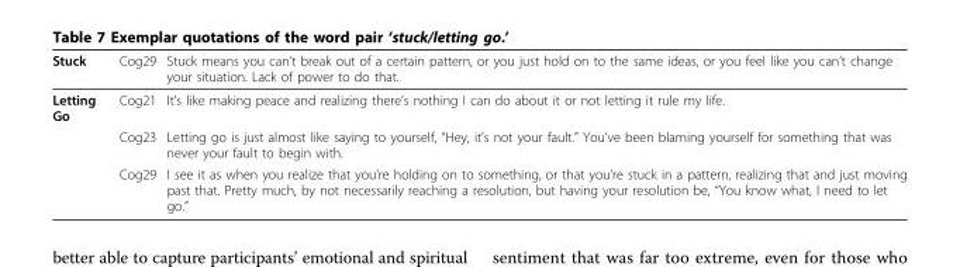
<table><thead><tr><td>Stuck</td><td>Cog29</td><td>Stuck means you can’t break out of a certain pattern, or you just hold on to the same ideas, or you feel like you can’t change your situation. Lack of power to do that.</td></tr></thead><tbody><tr><td rowspan="3">Letting Go</td><td>Cog21</td><td>It’s like making peace and realizing there’s nothing I can do about it or not letting it rule my life.</td></tr><tr><td>Cog23</td><td>Letting go is just almost like saying to yourself, “Hey, it’s not your fault.” You’ve been blaming yourself for something that was never your fault to begin with.</td></tr><tr><td>Cog29</td><td>I see it as when you realize that you’re holding on to something, or that you’re stuck in a pattern, realizing that and just moving past that. Pretty much, by not necessarily reaching a resolution, but having your resolution be, “You know what, I need to let go.”</td></tr></tbody></table>